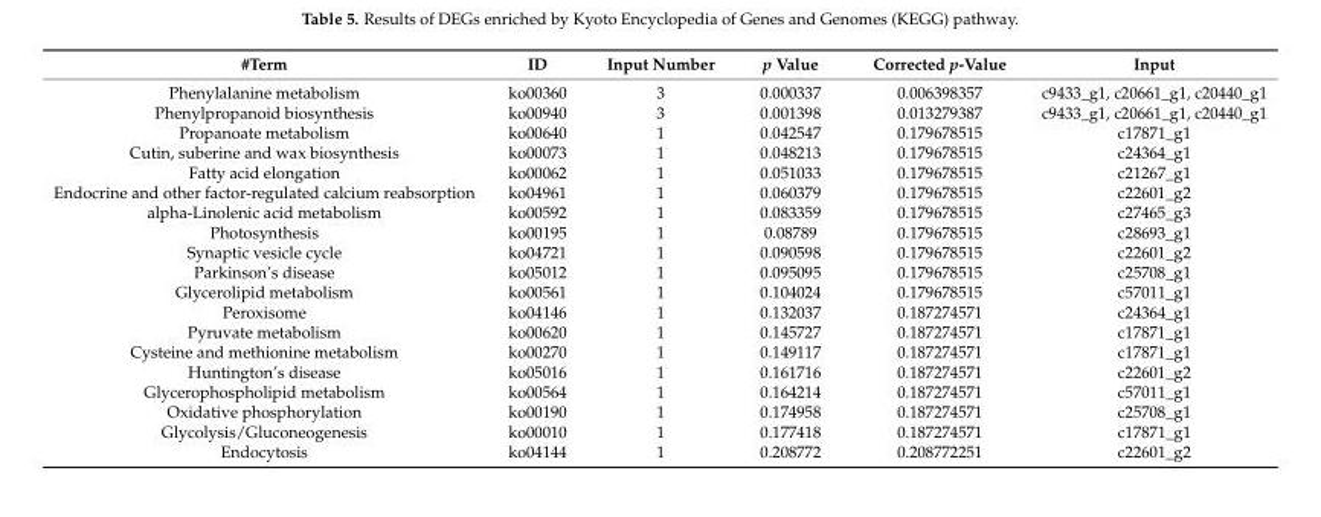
<table><thead><tr><td>#Term</td><td>ID</td><td>Input Number</td><td>p Value</td><td>Corrected p-Value</td><td>Input</td></tr></thead><tbody><tr><td>Phenylalanine metabolism</td><td>ko00360</td><td>3</td><td>0.000337</td><td>0.006398357</td><td>c9433_g1, c20661_g1, c20440_g1</td></tr><tr><td>Phenylpropanoid biosynthesis</td><td>ko00940</td><td>3</td><td>0.001398</td><td>0.013279387</td><td>c9433_g1, c20661_g1, c20440_g1</td></tr><tr><td>Propanoate metabolism</td><td>ko00640</td><td>1</td><td>0.042547</td><td>0.179678515</td><td>c17871_g1</td></tr><tr><td>Cutin, suberine and wax biosynthesis</td><td>ko00073</td><td>1</td><td>0.048213</td><td>0.179678515</td><td>c24364_g1</td></tr><tr><td>Fatty acid elongation</td><td>ko00062</td><td>1</td><td>0.051033</td><td>0.179678515</td><td>c21267_g1</td></tr><tr><td>Endocrine and other factor-regulated calcium reabsorption</td><td>ko04961</td><td>1</td><td>0.060379</td><td>0.179678515</td><td>c22601_g2</td></tr><tr><td>alpha-Linolenic acid metabolism</td><td>ko00592</td><td>1</td><td>0.083359</td><td>0.179678515</td><td>c27465_g3</td></tr><tr><td>Photosynthesis</td><td>ko00195</td><td>1</td><td>0.08789</td><td>0.179678515</td><td>c28693_g1</td></tr><tr><td>Synaptic vesicle cycle</td><td>ko04721</td><td>1</td><td>0.090598</td><td>0.179678515</td><td>c22601_g2</td></tr><tr><td>Parkinson’s disease</td><td>ko05012</td><td>1</td><td>0.095095</td><td>0.179678515</td><td>c25708_g1</td></tr><tr><td>Glycerolipid metabolism</td><td>ko00561</td><td>1</td><td>0.104024</td><td>0.179678515</td><td>c57011_g1</td></tr><tr><td>Peroxisome</td><td>ko04146</td><td>1</td><td>0.132037</td><td>0.187274571</td><td>c24364_g1</td></tr><tr><td>Pyruvate metabolism</td><td>ko00620</td><td>1</td><td>0.145727</td><td>0.187274571</td><td>c17871_g1</td></tr><tr><td>Cysteine and methionine metabolism</td><td>ko00270</td><td>1</td><td>0.149117</td><td>0.187274571</td><td>c17871_g1</td></tr><tr><td>Huntington’s disease</td><td>ko05016</td><td>1</td><td>0.161716</td><td>0.187274571</td><td>c22601_g2</td></tr><tr><td>Glycerophospholipid metabolism</td><td>ko00564</td><td>1</td><td>0.164214</td><td>0.187274571</td><td>c57011_g1</td></tr><tr><td>Oxidative phosphorylation</td><td>ko00190</td><td>1</td><td>0.174958</td><td>0.187274571</td><td>c25708_g1</td></tr><tr><td>Glycolysis/Gluconeogenesis</td><td>ko00010</td><td>1</td><td>0.177418</td><td>0.187274571</td><td>c17871_g1</td></tr><tr><td>Endocytosis</td><td>ko04144</td><td>1</td><td>0.208772</td><td>0.208772251</td><td>c22601_g2</td></tr></tbody></table>